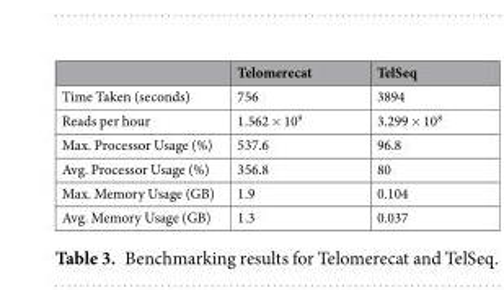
<table><thead><tr><td></td><td>Telomerecat</td><td>TelSeq</td></tr></thead><tbody><tr><td>Time Taken (seconds)</td><td>756</td><td>3894</td></tr><tr><td>Reads per hour</td><td>1.562 × 10<sup>9</sup></td><td>3.299 × 10<sup>8</sup></td></tr><tr><td>Max. Processor Usage (%)</td><td>537.6</td><td>96.8</td></tr><tr><td>Avg. Processor Usage (%)</td><td>356.8</td><td>80</td></tr><tr><td>Max. Memory Usage (GB)</td><td>1.9</td><td>0.104</td></tr><tr><td>Avg. Memory Usage (GB)</td><td>1.3</td><td>0.037</td></tr></tbody></table>